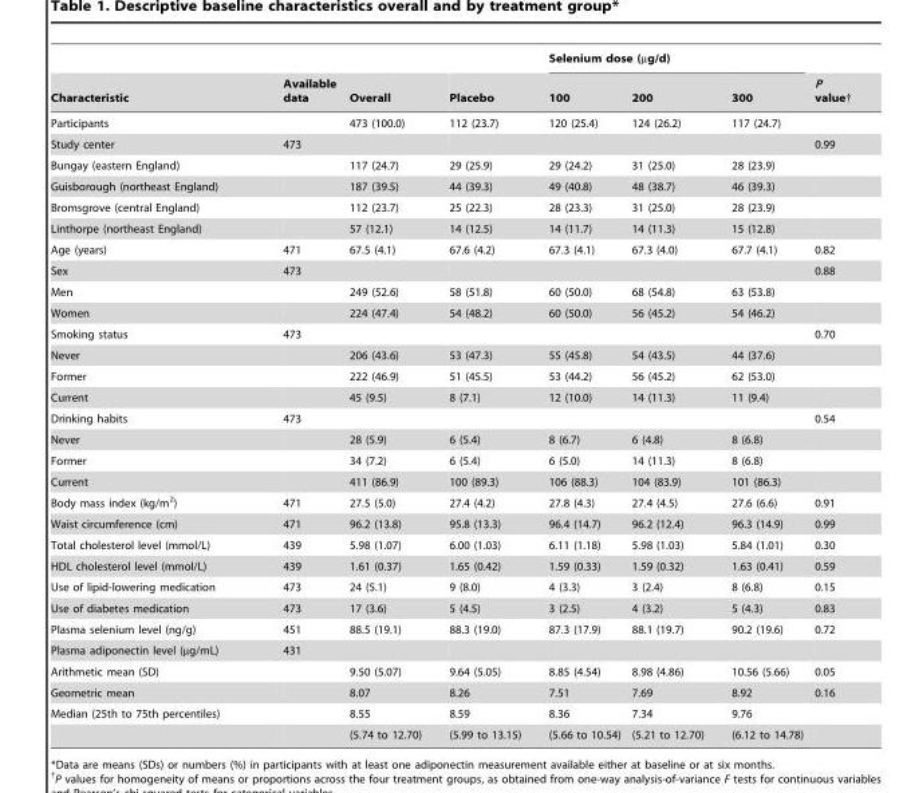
<table><thead><tr><td rowspan="2">Characteristic</td><td rowspan="2">Available data</td><td rowspan="2">Overall</td><td rowspan="2">Placebo</td><td colspan="3">Selenium dose (µg/d)</td><td rowspan="2">P value†</td></tr><tr><td>100</td><td>200</td><td>300</td></tr></thead><tbody><tr><td>Participants</td><td></td><td>473 (100.0)</td><td>112 (23.7)</td><td>120 (25.4)</td><td>124 (26.2)</td><td>117 (24.7)</td><td></td></tr><tr><td>Study center</td><td>473</td><td></td><td></td><td></td><td></td><td></td><td>0.99</td></tr><tr><td>Bungay (eastern England)</td><td></td><td>117 (24.7)</td><td>29 (25.9)</td><td>29 (24.2)</td><td>31 (25.0)</td><td>28 (23.9)</td><td></td></tr><tr><td>Guisborough (northeast England)</td><td></td><td>187 (39.5)</td><td>44 (39.3)</td><td>49 (40.8)</td><td>48 (38.7)</td><td>46 (39.3)</td><td></td></tr><tr><td>Bromsgrove (central England)</td><td></td><td>112 (23.7)</td><td>25 (22.3)</td><td>28 (23.3)</td><td>31 (25.0)</td><td>28 (23.9)</td><td></td></tr><tr><td>Linthorpe (northeast England)</td><td></td><td>57 (12.1)</td><td>14 (12.5)</td><td>14 (11.7)</td><td>14 (11.3)</td><td>15 (12.8)</td><td></td></tr><tr><td>Age (years)</td><td>471</td><td>67.5 (4.1)</td><td>67.6 (4.2)</td><td>67.3 (4.1)</td><td>67.3 (4.0)</td><td>67.7 (4.1)</td><td>0.82</td></tr><tr><td>Sex</td><td>473</td><td></td><td></td><td></td><td></td><td></td><td>0.88</td></tr><tr><td>Men</td><td></td><td>249 (52.6)</td><td>58 (51.8)</td><td>60 (50.0)</td><td>68 (54.8)</td><td>63 (53.8)</td><td></td></tr><tr><td>Women</td><td></td><td>224 (47.4)</td><td>54 (48.2)</td><td>60 (50.0)</td><td>56 (45.2)</td><td>54 (46.2)</td><td></td></tr><tr><td>Smoking status</td><td>473</td><td></td><td></td><td></td><td></td><td></td><td>0.70</td></tr><tr><td>Never</td><td></td><td>206 (43.6)</td><td>53 (47.3)</td><td>55 (45.8)</td><td>54 (43.5)</td><td>44 (37.6)</td><td></td></tr><tr><td>Former</td><td></td><td>222 (46.9)</td><td>51 (45.5)</td><td>53 (44.2)</td><td>56 (45.2)</td><td>62 (53.0)</td><td></td></tr><tr><td>Current</td><td></td><td>45 (9.5)</td><td>8 (7.1)</td><td>12 (10.0)</td><td>14 (11.3)</td><td>11 (9.4)</td><td></td></tr><tr><td>Drinking habits</td><td>473</td><td></td><td></td><td></td><td></td><td></td><td>0.54</td></tr><tr><td>Never</td><td></td><td>28 (5.9)</td><td>6 (5.4)</td><td>8 (6.7)</td><td>6 (4.8)</td><td>8 (6.8)</td><td></td></tr><tr><td>Former</td><td></td><td>34 (7.2)</td><td>6 (5.4)</td><td>6 (5.0)</td><td>14 (11.3)</td><td>8 (6.8)</td><td></td></tr><tr><td>Current</td><td></td><td>411 (86.9)</td><td>100 (89.3)</td><td>106 (88.3)</td><td>104 (83.9)</td><td>101 (86.3)</td><td></td></tr><tr><td>Body mass index (kg/m<sup>2</sup>)</td><td>471</td><td>27.5 (5.0)</td><td>27.4 (4.2)</td><td>27.8 (4.3)</td><td>27.4 (4.5)</td><td>27.6 (6.6)</td><td>0.91</td></tr><tr><td>Waist circumference (cm)</td><td>471</td><td>96.2 (13.8)</td><td>95.8 (13.3)</td><td>96.4 (14.7)</td><td>96.2 (12.4)</td><td>96.3 (14.9)</td><td>0.99</td></tr><tr><td>Total cholesterol level (mmol/L)</td><td>439</td><td>5.98 (1.07)</td><td>6.00 (1.03)</td><td>6.11 (1.18)</td><td>5.98 (1.03)</td><td>5.84 (1.01)</td><td>0.30</td></tr><tr><td>HDL cholesterol level (mmol/L)</td><td>439</td><td>1.61 (0.37)</td><td>1.65 (0.42)</td><td>1.59 (0.33)</td><td>1.59 (0.32)</td><td>1.63 (0.41)</td><td>0.59</td></tr><tr><td>Use of lipid-lowering medication</td><td>473</td><td>24 (5.1)</td><td>9 (8.0)</td><td>4 (3.3)</td><td>3 (2.4)</td><td>8 (6.8)</td><td>0.15</td></tr><tr><td>Use of diabetes medication</td><td>473</td><td>17 (3.6)</td><td>5 (4.5)</td><td>3 (2.5)</td><td>4 (3.2)</td><td>5 (4.3)</td><td>0.83</td></tr><tr><td>Plasma selenium level (ng/g)</td><td>451</td><td>88.5 (19.1)</td><td>88.3 (19.0)</td><td>87.3 (17.9)</td><td>88.1 (19.7)</td><td>90.2 (19.6)</td><td>0.72</td></tr><tr><td>Plasma adiponectin level (µg/mL)</td><td>431</td><td></td><td></td><td></td><td></td><td></td><td></td></tr><tr><td>Arithmetic mean (SD)</td><td></td><td>9.50 (5.07)</td><td>9.64 (5.05)</td><td>8.85 (4.54)</td><td>8.98 (4.86)</td><td>10.56 (5.66)</td><td>0.05</td></tr><tr><td>Geometric mean</td><td></td><td>8.07</td><td>8.26</td><td>7.51</td><td>7.69</td><td>8.92</td><td>0.16</td></tr><tr><td rowspan="2">Median (25th to 75th percentiles)</td><td></td><td>8.55</td><td>8.59</td><td>8.36</td><td>7.34</td><td>9.76</td><td></td></tr><tr><td></td><td>(5.74 to 12.70)</td><td>(5.99 to 13.15)</td><td>(5.66 to 10.54)</td><td>(5.21 to 12.70)</td><td>(6.12 to 14.78)</td><td></td></tr></tbody></table>